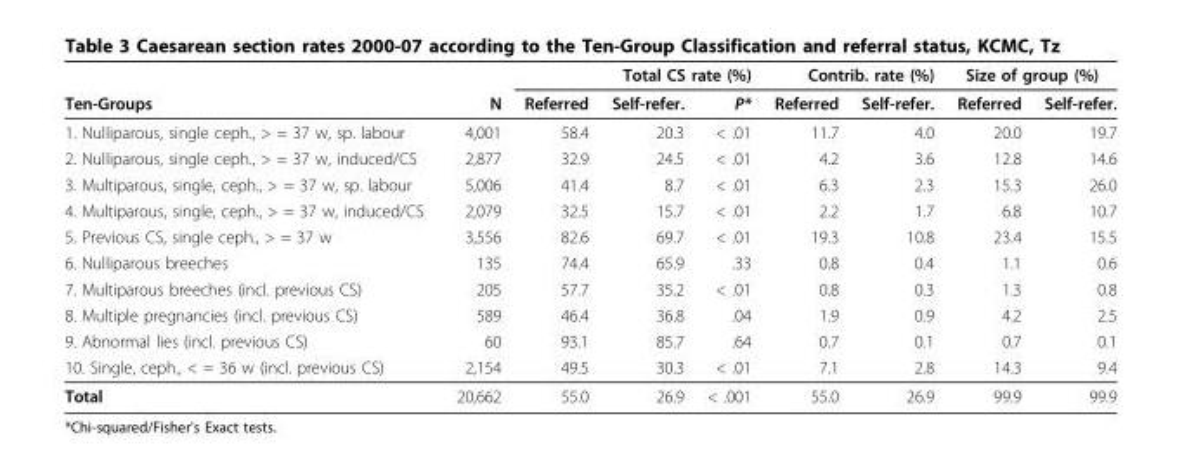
<table><thead><tr><td rowspan="2">Ten-Groups</td><td rowspan="2">N</td><td colspan="3">Total CS rate (%)</td><td colspan="2">Contrib. rate (%)</td><td colspan="2">Size of group (%)</td></tr><tr><td>Referred</td><td>Self-refer.</td><td>P*</td><td>Referred</td><td>Self-refer.</td><td>Referred</td><td>Self-refer.</td></tr></thead><tbody><tr><td>1. Nulliparous, single ceph., &gt; = 37 w, sp. labour</td><td>4,001</td><td>58.4</td><td>20.3</td><td>&lt; .01</td><td>11.7</td><td>4.0</td><td>20.0</td><td>19.7</td></tr><tr><td>2. Nulliparous, single ceph., &gt; = 37 w, induced/CS</td><td>2,877</td><td>32.9</td><td>24.5</td><td>&lt; .01</td><td>4.2</td><td>3.6</td><td>12.8</td><td>14.6</td></tr><tr><td>3. Multiparous, single, ceph., &gt; = 37 w, sp. labour</td><td>5,006</td><td>41.4</td><td>8.7</td><td>&lt; .01</td><td>6.3</td><td>2.3</td><td>15.3</td><td>26.0</td></tr><tr><td>4. Multiparous, single, ceph., &gt; = 37 w, induced/CS</td><td>2,079</td><td>32.5</td><td>15.7</td><td>&lt; .01</td><td>2.2</td><td>1.7</td><td>6.8</td><td>10.7</td></tr><tr><td>5. Previous CS, single ceph., &gt; = 37 w</td><td>3,556</td><td>82.6</td><td>69.7</td><td>&lt; .01</td><td>19.3</td><td>10.8</td><td>23.4</td><td>15.5</td></tr><tr><td>6. Nulliparous breeches</td><td>135</td><td>74.4</td><td>65.9</td><td>.33</td><td>0.8</td><td>0.4</td><td>1.1</td><td>0.6</td></tr><tr><td>7. Multiparous breeches (incl. previous CS)</td><td>205</td><td>57.7</td><td>35.2</td><td>&lt; .01</td><td>0.8</td><td>0.3</td><td>1.3</td><td>0.8</td></tr><tr><td>8. Multiple pregnancies (incl. previous CS)</td><td>589</td><td>46.4</td><td>36.8</td><td>.04</td><td>1.9</td><td>0.9</td><td>4.2</td><td>2.5</td></tr><tr><td>9. Abnormal lies (incl. previous CS)</td><td>60</td><td>93.1</td><td>85.7</td><td>.64</td><td>0.7</td><td>0.1</td><td>0.7</td><td>0.1</td></tr><tr><td>10. Single, ceph., &lt; = 36 w (incl. previous CS)</td><td>2,154</td><td>49.5</td><td>30.3</td><td>&lt; .01</td><td>7.1</td><td>2.8</td><td>14.3</td><td>9.4</td></tr><tr><td>Total</td><td>20,662</td><td>55.0</td><td>26.9</td><td>&lt; .001</td><td>55.0</td><td>26.9</td><td>99.9</td><td>99.9</td></tr></tbody></table>